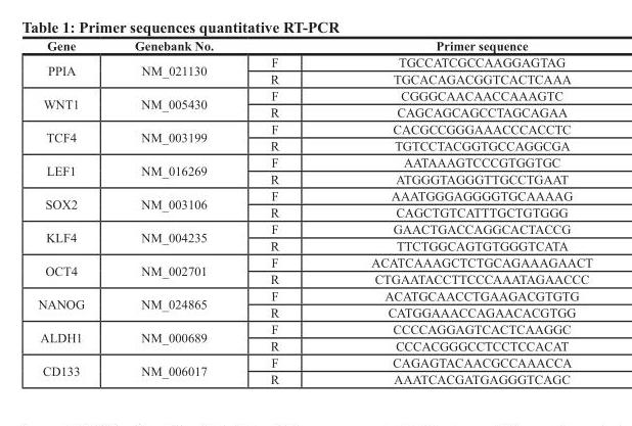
<table><thead><tr><td>Gene</td><td>Genebank No.</td><td></td><td>Primer sequence</td></tr></thead><tbody><tr><td rowspan="2">PPIA</td><td rowspan="2">NM_021130</td><td>F</td><td>TGCCATCGCCAAGGAGTAG</td></tr><tr><td>R</td><td>TGCACAGACGGTCACTCAAA</td></tr><tr><td rowspan="2">WNT1</td><td rowspan="2">NM_005430</td><td>F</td><td>CGGGCAACAACCAAAGTC</td></tr><tr><td>R</td><td>CAGCAGCAGCCTAGCAGAA</td></tr><tr><td rowspan="2">TCF4</td><td rowspan="2">NM_003199</td><td>F</td><td>CACGCCGGGAAACCCACCTC</td></tr><tr><td>R</td><td>TGTCCTACGGTGCCAGGCGA</td></tr><tr><td rowspan="2">LEF1</td><td rowspan="2">NM_016269</td><td>F</td><td>AATAAAGTCCCGTGGTGC</td></tr><tr><td>R</td><td>ATGGGTAGGGTTGCCTGAAT</td></tr><tr><td rowspan="2">SOX2</td><td rowspan="2">NM_003106</td><td>F</td><td>AAATGGGAGGGGTGCAAAAG</td></tr><tr><td>R</td><td>CAGCTGTCATTTGCTGTGGG</td></tr><tr><td rowspan="2">KLF4</td><td rowspan="2">NM_004235</td><td>F</td><td>GAACTGACCAGGCACTACCG</td></tr><tr><td>R</td><td>TTCTGGCAGTGTGGGTCATA</td></tr><tr><td rowspan="2">OCT4</td><td rowspan="2">NM_002701</td><td>F</td><td>ACATCAAAGCTCTGCAGAAAGAACT</td></tr><tr><td>R</td><td>CTGAATACCTTCCCAAATAGAACCC</td></tr><tr><td rowspan="2">NANOG</td><td rowspan="2">NM_024865</td><td>F</td><td>ACATGCAACCTGAAGACGTGTG</td></tr><tr><td>R</td><td>CATGGAAACCAGAACACGTGG</td></tr><tr><td rowspan="2">ALDH1</td><td rowspan="2">NM_000689</td><td>F</td><td>CCCCAGGAGTCACTCAAGGC</td></tr><tr><td>R</td><td>CCCACGGGCCTCCTCCACAT</td></tr><tr><td rowspan="2">CD133</td><td rowspan="2">NM_006017</td><td>F</td><td>CAGAGTACAACGCCAAACCA</td></tr><tr><td>R</td><td>AAATCACGATGAGGGTCAGC</td></tr></tbody></table>